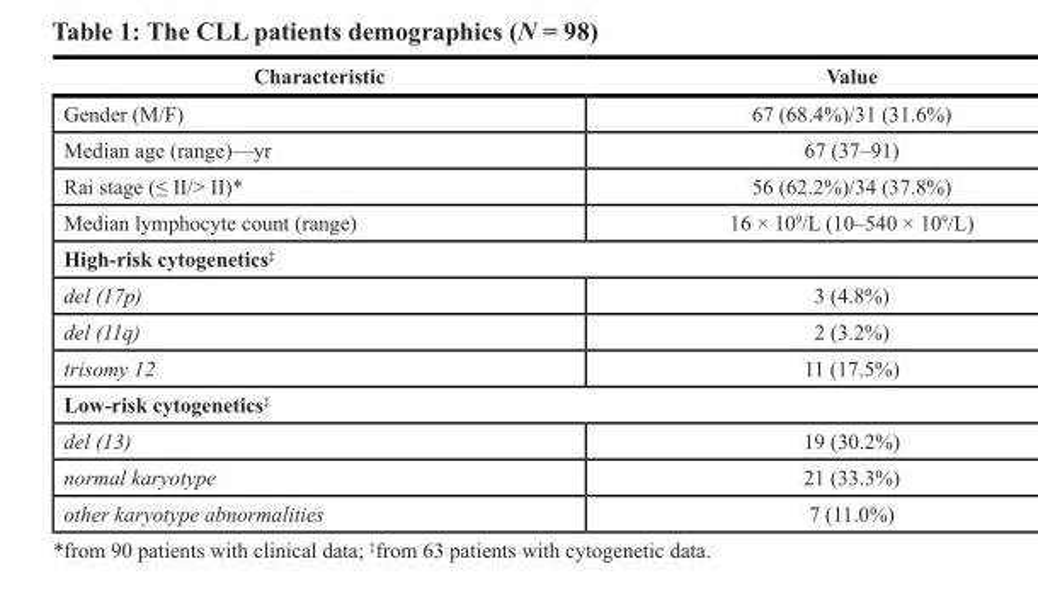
<table><thead><tr><td>Characteristic</td><td>Value</td></tr></thead><tbody><tr><td>Gender (M/F)</td><td>67 (68.4%)/31 (31.6%)</td></tr><tr><td>Median age (range)—yr</td><td>67 (37–91)</td></tr><tr><td>Rai stage (≤ II/&gt; II)*</td><td>56 (62.2%)/34 (37.8%)</td></tr><tr><td>Median lymphocyte count (range)</td><td>16 × 10<sup>9</sup>/L (10–540 × 10<sup>9</sup>/L)</td></tr><tr><td colspan="2">High-risk cytogenetics<sup>‡</sup></td></tr><tr><td>del (17p)</td><td>3 (4.8%)</td></tr><tr><td>del (11q)</td><td>2 (3.2%)</td></tr><tr><td>trisomy 12</td><td>11 (17.5%)</td></tr><tr><td colspan="2">Low-risk cytogenetics<sup>‡</sup></td></tr><tr><td>del (13)</td><td>19 (30.2%)</td></tr><tr><td>normal karyotype</td><td>21 (33.3%)</td></tr><tr><td>other karyotype abnormalities</td><td>7 (11.0%)</td></tr></tbody></table>